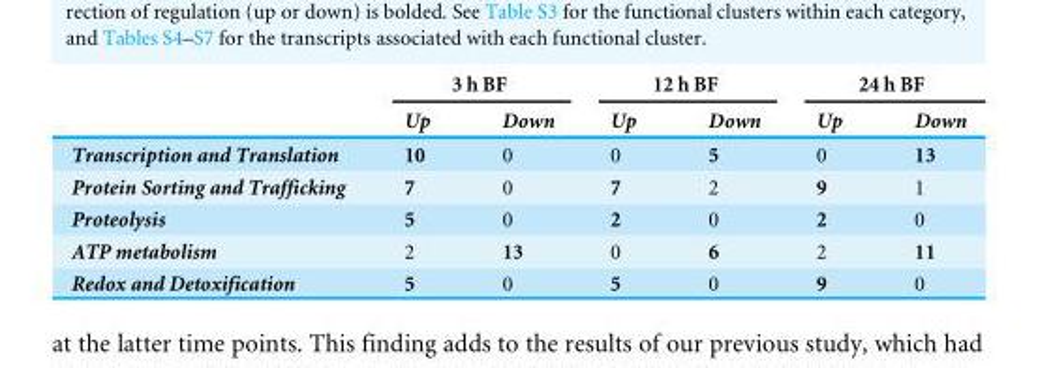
<table><thead><tr><td rowspan="2"></td><td colspan="2">3 h BF</td><td colspan="2">12 h BF</td><td colspan="2">24 h BF</td></tr><tr><td>Up</td><td>Down</td><td>Up</td><td>Down</td><td>Up</td><td>Down</td></tr></thead><tbody><tr><td>Transcription and Translation</td><td>10</td><td>0</td><td>0</td><td>5</td><td>0</td><td>13</td></tr><tr><td>Protein Sorting and Trafficking</td><td>7</td><td>0</td><td>7</td><td>2</td><td>9</td><td>1</td></tr><tr><td>Proteolysis</td><td>5</td><td>0</td><td>2</td><td>0</td><td>2</td><td>0</td></tr><tr><td>ATP metabolism</td><td>2</td><td>13</td><td>0</td><td>6</td><td>2</td><td>11</td></tr><tr><td>Redox and Detoxification</td><td>5</td><td>0</td><td>5</td><td>0</td><td>9</td><td>0</td></tr></tbody></table>